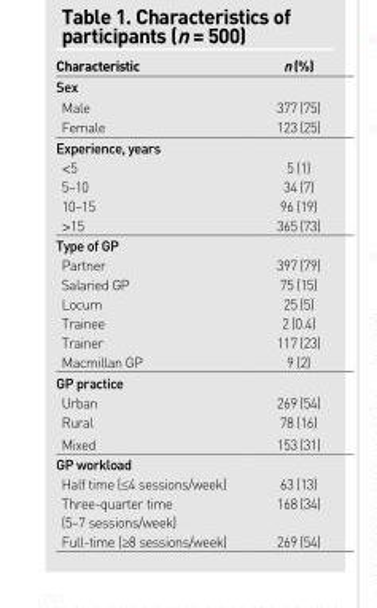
<table><thead><tr><td>Characteristic</td><td>n (%)</td></tr></thead><tbody><tr><td colspan="2">Sex</td></tr><tr><td>Male</td><td>377 (75)</td></tr><tr><td>Female</td><td>123 (25)</td></tr><tr><td colspan="2">Experience, years</td></tr><tr><td>&lt;5</td><td>5 (1)</td></tr><tr><td>5–10</td><td>34 (7)</td></tr><tr><td>10–15</td><td>96 (19)</td></tr><tr><td>&gt;15</td><td>365 (73)</td></tr><tr><td colspan="2">Type of GP</td></tr><tr><td>Partner</td><td>397 (79)</td></tr><tr><td>Salaried GP</td><td>75 (15)</td></tr><tr><td>Locum</td><td>25 (5)</td></tr><tr><td>Trainee</td><td>2 (0.4)</td></tr><tr><td>Trainer</td><td>117 (23)</td></tr><tr><td>Macmillan GP</td><td>9 (2)</td></tr><tr><td colspan="2">GP practice</td></tr><tr><td>Urban</td><td>269 (54)</td></tr><tr><td>Rural</td><td>78 (16)</td></tr><tr><td>Mixed</td><td>153 (31)</td></tr><tr><td colspan="2">GP workload</td></tr><tr><td>Half time (≤4 sessions/week)</td><td>63 (13)</td></tr><tr><td>Three-quarter time (5–7 sessions/week)</td><td>168 (34)</td></tr><tr><td>Full-time (≥8 sessions/week)</td><td>269 (54)</td></tr></tbody></table>